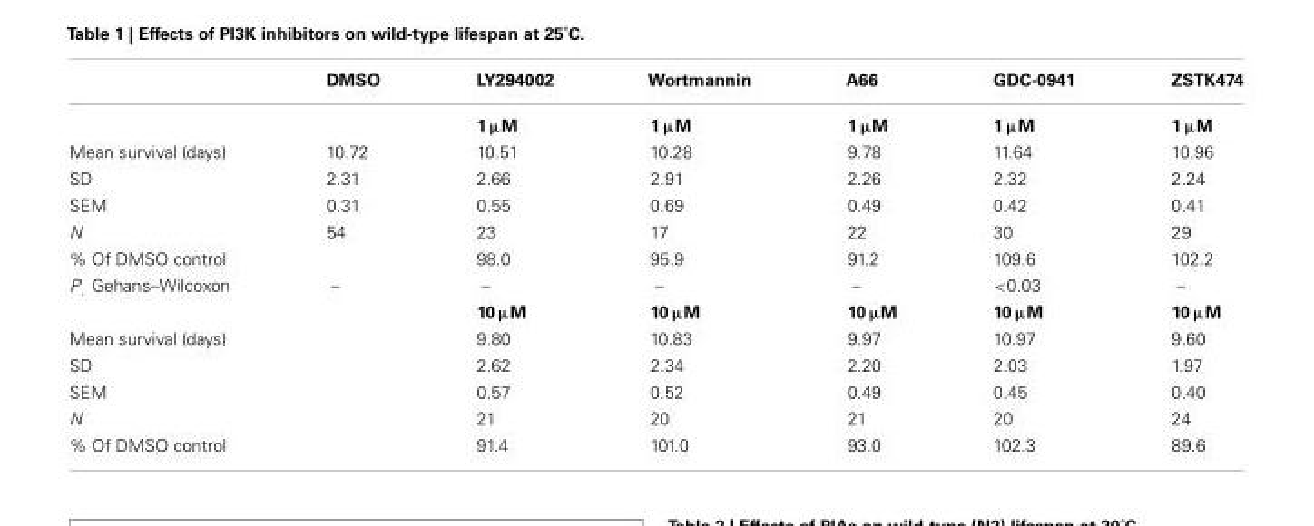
<table><thead><tr><td></td><td>DMSO</td><td>LY294002</td><td>Wortmannin</td><td>A66</td><td>GDC-0941</td><td>ZSTK474</td></tr></thead><tbody><tr><td></td><td></td><td>1 µM</td><td>1 µM</td><td>1 µM</td><td>1 µM</td><td>1 µM</td></tr><tr><td>Mean survival (days)</td><td>10.72</td><td>10.51</td><td>10.28</td><td>9.78</td><td>11.64</td><td>10.96</td></tr><tr><td>SD</td><td>2.31</td><td>2.66</td><td>2.91</td><td>2.26</td><td>2.32</td><td>2.24</td></tr><tr><td>SEM</td><td>0.31</td><td>0.55</td><td>0.69</td><td>0.49</td><td>0.42</td><td>0.41</td></tr><tr><td>N</td><td>54</td><td>23</td><td>17</td><td>22</td><td>30</td><td>29</td></tr><tr><td>% Of DMSO control</td><td></td><td>98.0</td><td>95.9</td><td>91.2</td><td>109.6</td><td>102.2</td></tr><tr><td rowspan="2">P<sub>,</sub> Gehans–Wilcoxon</td><td>–</td><td>–</td><td>–</td><td>–</td><td>&lt;0.03</td><td>–</td></tr><tr><td></td><td>10 µM</td><td>10 µM</td><td>10 µM</td><td>10 µM</td><td>10 µM</td></tr><tr><td>Mean survival (days)</td><td></td><td>9.80</td><td>10.83</td><td>9.97</td><td>10.97</td><td>9.60</td></tr><tr><td>SD</td><td></td><td>2.62</td><td>2.34</td><td>2.20</td><td>2.03</td><td>1.97</td></tr><tr><td>SEM</td><td></td><td>0.57</td><td>0.52</td><td>0.49</td><td>0.45</td><td>0.40</td></tr><tr><td>N</td><td></td><td>21</td><td>20</td><td>21</td><td>20</td><td>24</td></tr><tr><td>% Of DMSO control</td><td></td><td>91.4</td><td>101.0</td><td>93.0</td><td>102.3</td><td>89.6</td></tr></tbody></table>